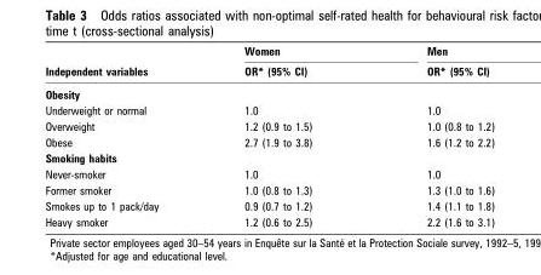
<table><thead><tr><td rowspan="2">Independent variables</td><td rowspan="2">Women OR* (95% CI)</td><td rowspan="2">Men OR* (95% CI)</td></tr><tr></tr></thead><tbody><tr><td colspan="3">Obesity</td></tr><tr><td>Underweight or normal</td><td>1.0</td><td>1.0</td></tr><tr><td>Overweight</td><td>1.2 (0.9 to 1.5)</td><td>1.0 (0.8 to 1.2)</td></tr><tr><td>Obese</td><td>2.7 (1.9 to 3.8)</td><td>1.6 (1.2 to 2.2)</td></tr><tr><td colspan="3">Smoking habits</td></tr><tr><td>Never-smoker</td><td>1.0</td><td>1.0</td></tr><tr><td>Former smoker</td><td>1.0 (0.8 to 1.3)</td><td>1.3 (1.0 to 1.6)</td></tr><tr><td>Smokes up to 1 pack/day</td><td>0.9 (0.7 to 1.2)</td><td>1.4 (1.1 to 1.8)</td></tr><tr><td>Heavy smoker</td><td>1.2 (0.6 to 2.5)</td><td>2.2 (1.6 to 3.1)</td></tr></tbody></table>